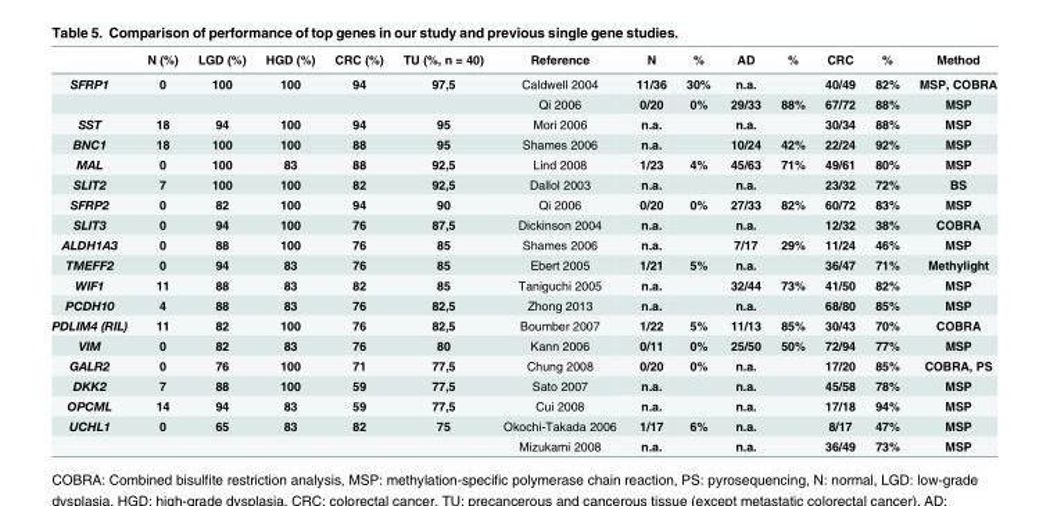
<table><thead><tr><td></td><td>N (%)</td><td>LGD (%)</td><td>HGD (%)</td><td>CRC (%)</td><td>TU (%, n = 40)</td><td>Reference</td><td>N</td><td>%</td><td>AD</td><td>%</td><td>CRC</td><td>%</td><td>Method</td></tr></thead><tbody><tr><td rowspan="2">SFRP1</td><td>0</td><td>100</td><td>100</td><td>94</td><td>97,5</td><td>Caldwell 2004</td><td>11/36</td><td>30%</td><td>n.a.</td><td></td><td>40/49</td><td>82%</td><td>MSP, COBRA</td></tr><tr><td></td><td></td><td></td><td></td><td></td><td>Qi 2006</td><td>0/20</td><td>0%</td><td>29/33</td><td>88%</td><td>67/72</td><td>88%</td><td>MSP</td></tr><tr><td>SST</td><td>18</td><td>94</td><td>100</td><td>94</td><td>95</td><td>Mori 2006</td><td>n.a.</td><td></td><td>n.a.</td><td></td><td>30/34</td><td>88%</td><td>MSP</td></tr><tr><td>BNC1</td><td>18</td><td>100</td><td>100</td><td>88</td><td>95</td><td>Shames 2006</td><td>n.a.</td><td></td><td>10/24</td><td>42%</td><td>22/24</td><td>92%</td><td>MSP</td></tr><tr><td>MAL</td><td>0</td><td>100</td><td>83</td><td>88</td><td>92,5</td><td>Lind 2008</td><td>1/23</td><td>4%</td><td>45/63</td><td>71%</td><td>49/61</td><td>80%</td><td>MSP</td></tr><tr><td>SLIT2</td><td>7</td><td>100</td><td>100</td><td>82</td><td>92,5</td><td>Dallol 2003</td><td>n.a.</td><td></td><td>n.a.</td><td></td><td>23/32</td><td>72%</td><td>BS</td></tr><tr><td>SFRP2</td><td>0</td><td>82</td><td>100</td><td>94</td><td>90</td><td>Qi 2006</td><td>0/20</td><td>0%</td><td>27/33</td><td>82%</td><td>60/72</td><td>83%</td><td>MSP</td></tr><tr><td>SLIT3</td><td>0</td><td>94</td><td>100</td><td>76</td><td>87,5</td><td>Dickinson 2004</td><td>n.a.</td><td></td><td>n.a.</td><td></td><td>12/32</td><td>38%</td><td>COBRA</td></tr><tr><td>ALDH1A3</td><td>0</td><td>88</td><td>100</td><td>76</td><td>85</td><td>Shames 2006</td><td>n.a.</td><td></td><td>7/17</td><td>29%</td><td>11/24</td><td>46%</td><td>MSP</td></tr><tr><td>TMEFF2</td><td>0</td><td>94</td><td>83</td><td>76</td><td>85</td><td>Ebert 2005</td><td>1/21</td><td>5%</td><td>n.a.</td><td></td><td>36/47</td><td>71%</td><td>Methylight</td></tr><tr><td>WIF1</td><td>11</td><td>88</td><td>83</td><td>82</td><td>85</td><td>Taniguchi 2005</td><td>n.a.</td><td></td><td>32/44</td><td>73%</td><td>41/50</td><td>82%</td><td>MSP</td></tr><tr><td>PCDH10</td><td>4</td><td>88</td><td>83</td><td>76</td><td>82,5</td><td>Zhong 2013</td><td>n.a.</td><td></td><td>n.a.</td><td></td><td>68/80</td><td>85%</td><td>MSP</td></tr><tr><td>PDLIM4 (RIL)</td><td>11</td><td>82</td><td>100</td><td>76</td><td>82,5</td><td>Boumber 2007</td><td>1/22</td><td>5%</td><td>11/13</td><td>85%</td><td>30/43</td><td>70%</td><td>COBRA</td></tr><tr><td>VIM</td><td>0</td><td>82</td><td>83</td><td>76</td><td>80</td><td>Kann 2006</td><td>0/11</td><td>0%</td><td>25/50</td><td>50%</td><td>72/94</td><td>77%</td><td>MSP</td></tr><tr><td>GALR2</td><td>0</td><td>76</td><td>100</td><td>71</td><td>77,5</td><td>Chung 2008</td><td>0/20</td><td>0%</td><td>n.a.</td><td></td><td>17/20</td><td>85%</td><td>COBRA, PS</td></tr><tr><td>DKK2</td><td>7</td><td>88</td><td>100</td><td>59</td><td>77,5</td><td>Sato 2007</td><td>n.a.</td><td></td><td>n.a.</td><td></td><td>45/58</td><td>78%</td><td>MSP</td></tr><tr><td>OPCML</td><td>14</td><td>94</td><td>83</td><td>59</td><td>77,5</td><td>Cui 2008</td><td>n.a.</td><td></td><td>n.a.</td><td></td><td>17/18</td><td>94%</td><td>MSP</td></tr><tr><td rowspan="2">UCHL1</td><td>0</td><td>65</td><td>83</td><td>82</td><td>75</td><td>Okochi-Takada 2006</td><td>1/17</td><td>6%</td><td>n.a.</td><td></td><td>8/17</td><td>47%</td><td>MSP</td></tr><tr><td></td><td></td><td></td><td></td><td></td><td>Mizukami 2008</td><td>n.a.</td><td></td><td>n.a.</td><td></td><td>36/49</td><td>73%</td><td>MSP</td></tr></tbody></table>